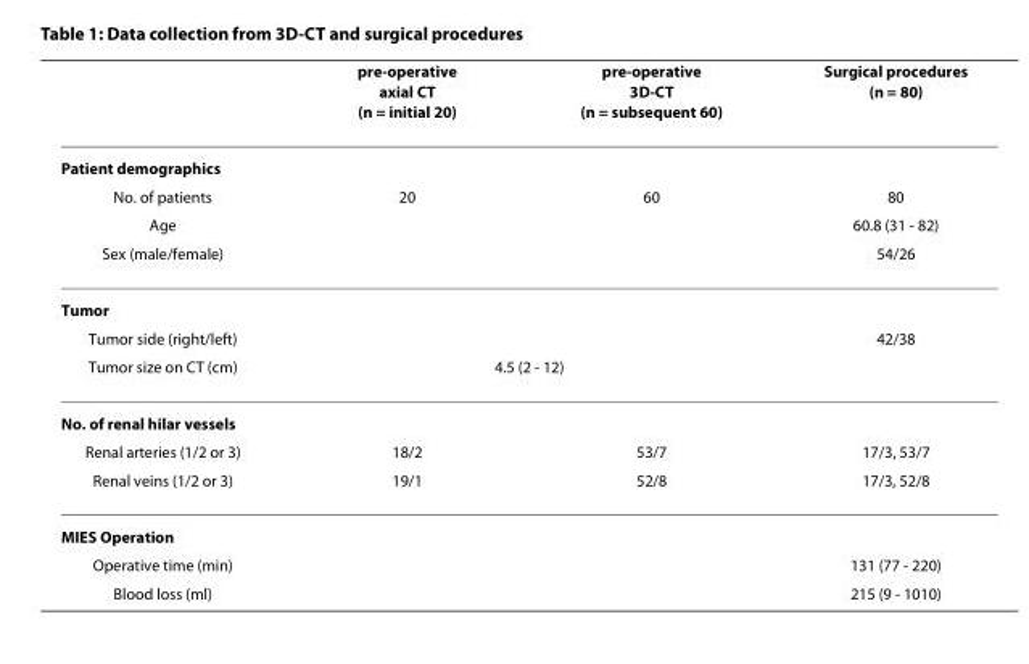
<table><thead><tr><td></td><td>pre-operative axial CT (n = initial 20)</td><td>pre-operative 3D-CT (n = subsequent 60)</td><td>Surgical procedures (n = 80)</td></tr></thead><tbody><tr><td colspan="4">Patient demographics</td></tr><tr><td>No. of patients</td><td>20</td><td>60</td><td>80</td></tr><tr><td>Age</td><td></td><td></td><td>60.8 (31 - 82)</td></tr><tr><td>Sex (male/female)</td><td></td><td></td><td>54/26</td></tr><tr><td colspan="4">Tumor</td></tr><tr><td>Tumor side (right/left)</td><td></td><td></td><td>42/38</td></tr><tr><td>Tumor size on CT (cm)</td><td colspan="2">4.5 (2 - 12)</td><td></td></tr><tr><td colspan="4">No. of renal hilar vessels</td></tr><tr><td>Renal arteries (1/2 or 3)</td><td>18/2</td><td>53/7</td><td>17/3, 53/7</td></tr><tr><td>Renal veins (1/2 or 3)</td><td>19/1</td><td>52/8</td><td>17/3, 52/8</td></tr><tr><td colspan="4">MIES Operation</td></tr><tr><td>Operative time (min)</td><td></td><td></td><td>131 (77 - 220)</td></tr><tr><td>Blood loss (ml)</td><td></td><td></td><td>215 (9 - 1010)</td></tr></tbody></table>